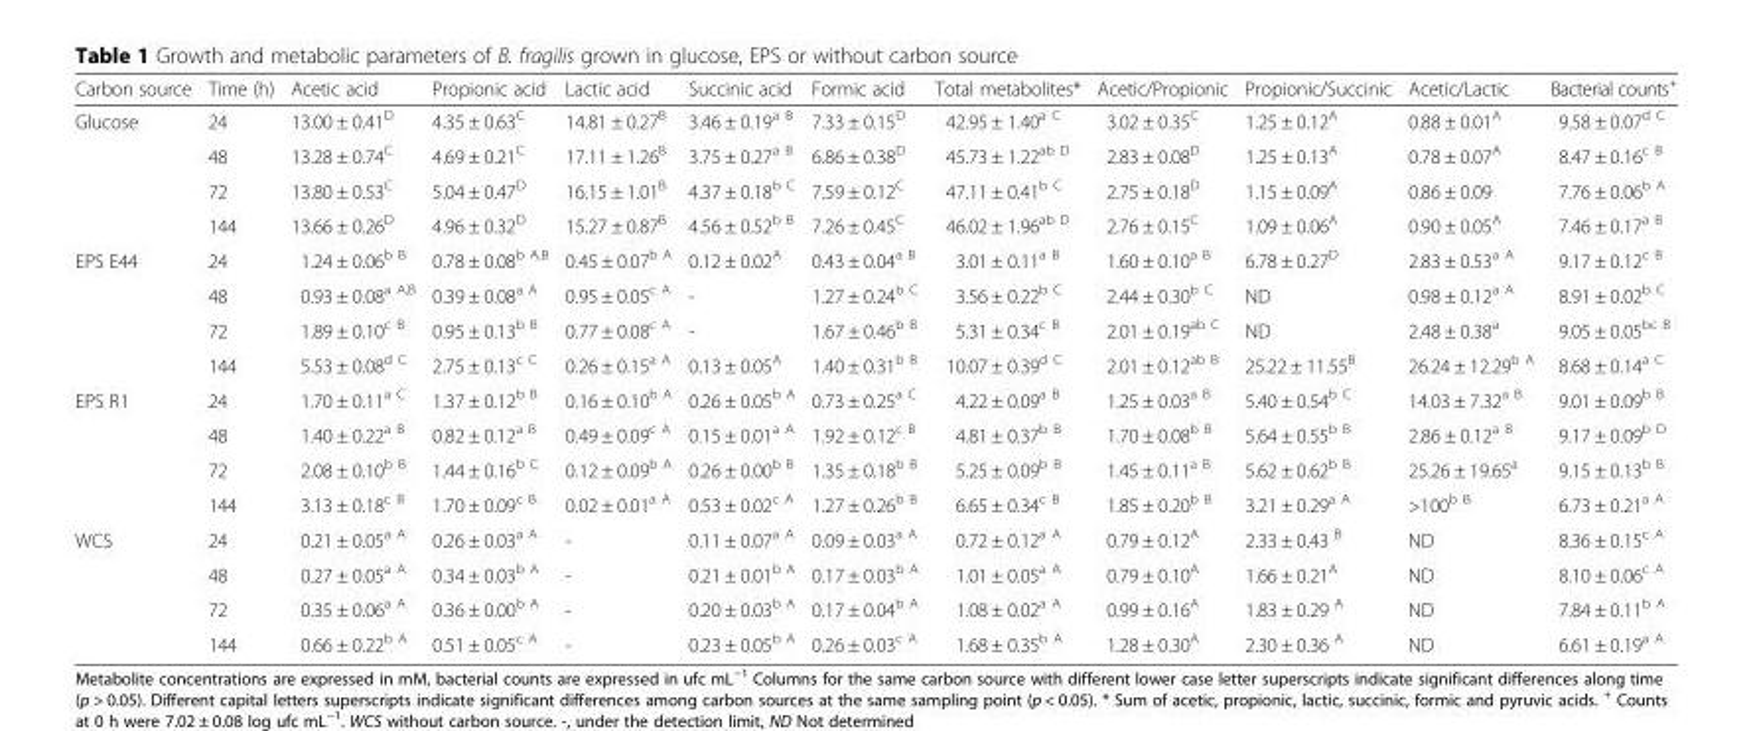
<table><thead><tr><td>Carbon source</td><td>Time (h)</td><td>Acetic acid</td><td>Propionic acid</td><td>Lactic acid</td><td>Succinic acid</td><td>Formic acid</td><td>Total metabolites*</td><td>Acetic/Propionic</td><td>Propionic/Succinic</td><td>Acetic/Lactic</td><td>Bacterial counts<sup>+</sup></td></tr></thead><tbody><tr><td rowspan="4">Glucose</td><td>24</td><td>13.00 ± 0.41<sup>D</sup></td><td>4.35 ± 0.63<sup>C</sup></td><td>14.81 ± 0.27<sup>B</sup></td><td>3.46 ± 0.19<sup>a B</sup></td><td>7.33 ± 0.15<sup>D</sup></td><td>42.95 ± 1.40<sup>a C</sup></td><td>3.02 ± 0.35<sup>C</sup></td><td>1.25 ± 0.12<sup>A</sup></td><td>0.88 ± 0.01<sup>A</sup></td><td>9.58 ± 0.07<sup>d C</sup></td></tr><tr><td>48</td><td>13.28 ± 0.74<sup>C</sup></td><td>4.69 ± 0.21<sup>C</sup></td><td>17.11 ± 1.26<sup>B</sup></td><td>3.75 ± 0.27<sup>a B</sup></td><td>6.86 ± 0.38<sup>D</sup></td><td>45.73 ± 1.22<sup>ab D</sup></td><td>2.83 ± 0.08<sup>D</sup></td><td>1.25 ± 0.13<sup>A</sup></td><td>0.78 ± 0.07<sup>A</sup></td><td>8.47 ± 0.16<sup>c B</sup></td></tr><tr><td>72</td><td>13.80 ± 0.53<sup>C</sup></td><td>5.04 ± 0.47<sup>D</sup></td><td>16.15 ± 1.01<sup>B</sup></td><td>4.37 ± 0.18<sup>b C</sup></td><td>7.59 ± 0.12<sup>C</sup></td><td>47.11 ± 0.41<sup>b C</sup></td><td>2.75 ± 0.18<sup>D</sup></td><td>1.15 ± 0.09<sup>A</sup></td><td>0.86 ± 0.09</td><td>7.76 ± 0.06<sup>b A</sup></td></tr><tr><td>144</td><td>13.66 ± 0.26<sup>D</sup></td><td>4.96 ± 0.32<sup>D</sup></td><td>15.27 ± 0.87<sup>B</sup></td><td>4.56 ± 0.52<sup>b B</sup></td><td>7.26 ± 0.45<sup>C</sup></td><td>46.02 ± 1.96<sup>ab D</sup></td><td>2.76 ± 0.15<sup>C</sup></td><td>1.09 ± 0.06<sup>A</sup></td><td>0.90 ± 0.05<sup>A</sup></td><td>7.46 ± 0.17<sup>a B</sup></td></tr><tr><td rowspan="4">EPS E44</td><td>24</td><td>1.24 ± 0.06<sup>b B</sup></td><td>0.78 ± 0.08<sup>b A,B</sup></td><td>0.45 ± 0.07<sup>b A</sup></td><td>0.12 ± 0.02<sup>A</sup></td><td>0.43 ± 0.04<sup>a B</sup></td><td>3.01 ± 0.11<sup>a B</sup></td><td>1.60 ± 0.10<sup>a B</sup></td><td>6.78 ± 0.27<sup>D</sup></td><td>2.83 ± 0.53<sup>a A</sup></td><td>9.17 ± 0.12<sup>c B</sup></td></tr><tr><td>48</td><td>0.93 ± 0.08<sup>a A,B</sup></td><td>0.39 ± 0.08<sup>a A</sup></td><td>0.95 ± 0.05<sup>c A</sup></td><td>-</td><td>1.27 ± 0.24<sup>b C</sup></td><td>3.56 ± 0.22<sup>b C</sup></td><td>2.44 ± 0.30<sup>b C</sup></td><td>ND</td><td>0.98 ± 0.12<sup>a A</sup></td><td>8.91 ± 0.02<sup>b C</sup></td></tr><tr><td>72</td><td>1.89 ± 0.10<sup>c B</sup></td><td>0.95 ± 0.13<sup>b B</sup></td><td>0.77 ± 0.08<sup>c A</sup></td><td>-</td><td>1.67 ± 0.46<sup>b B</sup></td><td>5.31 ± 0.34<sup>c B</sup></td><td>2.01 ± 0.19<sup>ab C</sup></td><td>ND</td><td>2.48 ± 0.38<sup>a</sup></td><td>9.05 ± 0.05<sup>bc B</sup></td></tr><tr><td>144</td><td>5.53 ± 0.08<sup>d C</sup></td><td>2.75 ± 0.13<sup>c C</sup></td><td>0.26 ± 0.15<sup>a A</sup></td><td>0.13 ± 0.05<sup>A</sup></td><td>1.40 ± 0.31<sup>b B</sup></td><td>10.07 ± 0.39<sup>d C</sup></td><td>2.01 ± 0.12<sup>ab B</sup></td><td>25.22 ± 11.55<sup>B</sup></td><td>26.24 ± 12.29<sup>b A</sup></td><td>8.68 ± 0.14<sup>a C</sup></td></tr><tr><td rowspan="4">EPS R1</td><td>24</td><td>1.70 ± 0.11<sup>a C</sup></td><td>1.37 ± 0.12<sup>b B</sup></td><td>0.16 ± 0.10<sup>b A</sup></td><td>0.26 ± 0.05<sup>b A</sup></td><td>0.73 ± 0.25<sup>a C</sup></td><td>4.22 ± 0.09<sup>a B</sup></td><td>1.25 ± 0.03<sup>a B</sup></td><td>5.40 ± 0.54<sup>b C</sup></td><td>14.03 ± 7.32<sup>a B</sup></td><td>9.01 ± 0.09<sup>b B</sup></td></tr><tr><td>48</td><td>1.40 ± 0.22<sup>a B</sup></td><td>0.82 ± 0.12<sup>a B</sup></td><td>0.49 ± 0.09<sup>c A</sup></td><td>0.15 ± 0.01<sup>a A</sup></td><td>1.92 ± 0.12<sup>c B</sup></td><td>4.81 ± 0.37<sup>b B</sup></td><td>1.70 ± 0.08<sup>b B</sup></td><td>5.64 ± 0.55<sup>b B</sup></td><td>2.86 ± 0.12<sup>a B</sup></td><td>9.17 ± 0.09<sup>b D</sup></td></tr><tr><td>72</td><td>2.08 ± 0.10<sup>b B</sup></td><td>1.44 ± 0.16<sup>b C</sup></td><td>0.12 ± 0.09<sup>b A</sup></td><td>0.26 ± 0.00<sup>b B</sup></td><td>1.35 ± 0.18<sup>b B</sup></td><td>5.25 ± 0.09<sup>b B</sup></td><td>1.45 ± 0.11<sup>a B</sup></td><td>5.62 ± 0.62<sup>b B</sup></td><td>25.26 ± 19.65<sup>a</sup></td><td>9.15 ± 0.13<sup>b B</sup></td></tr><tr><td>144</td><td>3.13 ± 0.18<sup>c B</sup></td><td>1.70 ± 0.09<sup>c B</sup></td><td>0.02 ± 0.01<sup>a A</sup></td><td>0.53 ± 0.02<sup>c A</sup></td><td>1.27 ± 0.26<sup>b B</sup></td><td>6.65 ± 0.34<sup>c B</sup></td><td>1.85 ± 0.20<sup>b B</sup></td><td>3.21 ± 0.29<sup>a A</sup></td><td>&gt;100<sup>b B</sup></td><td>6.73 ± 0.21<sup>a A</sup></td></tr><tr><td rowspan="4">WCS</td><td>24</td><td>0.21 ± 0.05<sup>a A</sup></td><td>0.26 ± 0.03<sup>a A</sup></td><td>-</td><td>0.11 ± 0.07<sup>a A</sup></td><td>0.09 ± 0.03<sup>a A</sup></td><td>0.72 ± 0.12<sup>a A</sup></td><td>0.79 ± 0.12<sup>A</sup></td><td>2.33 ± 0.43 <sup>B</sup></td><td>ND</td><td>8.36 ± 0.15<sup>c A</sup></td></tr><tr><td>48</td><td>0.27 ± 0.05<sup>a A</sup></td><td>0.34 ± 0.03<sup>b A</sup></td><td>-</td><td>0.21 ± 0.01<sup>b A</sup></td><td>0.17 ± 0.03<sup>b A</sup></td><td>1.01 ± 0.05<sup>a A</sup></td><td>0.79 ± 0.10<sup>A</sup></td><td>1.66 ± 0.21<sup>A</sup></td><td>ND</td><td>8.10 ± 0.06<sup>c A</sup></td></tr><tr><td>72</td><td>0.35 ± 0.06<sup>a A</sup></td><td>0.36 ± 0.00<sup>b A</sup></td><td>-</td><td>0.20 ± 0.03<sup>b A</sup></td><td>0.17 ± 0.04<sup>b A</sup></td><td>1.08 ± 0.02<sup>a A</sup></td><td>0.99 ± 0.16<sup>A</sup></td><td>1.83 ± 0.29 <sup>A</sup></td><td>ND</td><td>7.84 ± 0.11<sup>b A</sup></td></tr><tr><td>144</td><td>0.66 ± 0.22<sup>b A</sup></td><td>0.51 ± 0.05<sup>c A</sup></td><td>-</td><td>0.23 ± 0.05<sup>b A</sup></td><td>0.26 ± 0.03<sup>c A</sup></td><td>1.68 ± 0.35<sup>b A</sup></td><td>1.28 ± 0.30<sup>A</sup></td><td>2.30 ± 0.36 <sup>A</sup></td><td>ND</td><td>6.61 ± 0.19<sup>a A</sup></td></tr></tbody></table>